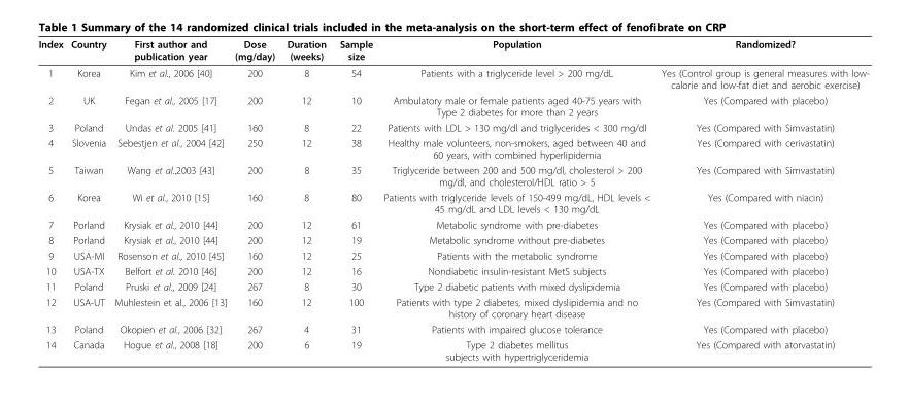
<table><thead><tr><td>Index</td><td>Country</td><td>First author and publication year</td><td>Dose (mg/day)</td><td>Duration (weeks)</td><td>Sample size</td><td>Population</td><td>Randomized?</td></tr></thead><tbody><tr><td>1</td><td>Korea</td><td>Kim et al., 2006 [40]</td><td>200</td><td>8</td><td>54</td><td>Patients with a triglyceride level &gt; 200 mg/dL</td><td>Yes (Control group is general measures with low- calorie and low-fat diet and aerobic exercise)</td></tr><tr><td>2</td><td>UK</td><td>Fegan et al., 2005 [17]</td><td>200</td><td>12</td><td>10</td><td>Ambulatory male or female patients aged 40-75 years with Type 2 diabetes for more than 2 years</td><td>Yes (Compared with placebo)</td></tr><tr><td>3</td><td>Poland</td><td>Undas et al. 2005 [41]</td><td>160</td><td>8</td><td>22</td><td>Patients with LDL &gt; 130 mg/dl and triglycerides &lt; 300 mg/dl</td><td>Yes (Compared with Simvastatin)</td></tr><tr><td>4</td><td>Slovenia</td><td>Sebestjen et al., 2004 [42]</td><td>250</td><td>12</td><td>38</td><td>Healthy male volunteers, non-smokers, aged between 40 and 60 years, with combined hyperlipidemia</td><td>Yes (Compared with cerivastatin)</td></tr><tr><td>5</td><td>Taiwan</td><td>Wang et al.,2003 [43]</td><td>200</td><td>8</td><td>35</td><td>Triglyceride between 200 and 500 mg/dl, cholesterol &gt; 200 mg/dl, and cholesterol/HDL ratio &gt; 5</td><td>Yes (Compared with Simvastatin)</td></tr><tr><td>6</td><td>Korea</td><td>Wi et al., 2010 [15]</td><td>160</td><td>8</td><td>80</td><td>Patients with triglyceride levels of 150-499 mg/dL, HDL levels &lt; 45 mg/dL and LDL levels &lt; 130 mg/dL</td><td>Yes (Compared with niacin)</td></tr><tr><td>7</td><td>Porland</td><td>Krysiak et al., 2010 [44]</td><td>200</td><td>12</td><td>61</td><td>Metabolic syndrome with pre-diabetes</td><td>Yes (Compared with placebo)</td></tr><tr><td>8</td><td>Porland</td><td>Krysiak et al., 2010 [44]</td><td>200</td><td>12</td><td>19</td><td>Metabolic syndrome without pre-diabetes</td><td>Yes (Compared with placebo)</td></tr><tr><td>9</td><td>USA-MI</td><td>Rosenson et al., 2010 [45]</td><td>160</td><td>12</td><td>25</td><td>Patients with the metabolic syndrome</td><td>Yes (Compared with placebo)</td></tr><tr><td>10</td><td>USA-TX</td><td>Belfort et al. 2010 [46]</td><td>200</td><td>12</td><td>16</td><td>Nondiabetic insulin-resistant MetS subjects</td><td>Yes (Compared with placebo)</td></tr><tr><td>11</td><td>Poland</td><td>Pruski et al., 2009 [24]</td><td>267</td><td>8</td><td>30</td><td>Type 2 diabetic patients with mixed dyslipidemia</td><td>Yes (Compared with placebo)</td></tr><tr><td>12</td><td>USA-UT</td><td>Muhlestein et al., 2006 [13]</td><td>160</td><td>12</td><td>100</td><td>Patients with type 2 diabetes, mixed dyslipidemia and no history of coronary heart disease</td><td>Yes (Compared with Simvastatin)</td></tr><tr><td>13</td><td>Poland</td><td>Okopien et al., 2006 [32]</td><td>267</td><td>4</td><td>31</td><td>Patients with impaired glucose tolerance</td><td>Yes (Compared with placebo)</td></tr><tr><td>14</td><td>Canada</td><td>Hogue et al., 2008 [18]</td><td>200</td><td>6</td><td>19</td><td>Type 2 diabetes mellitus subjects with hypertriglyceridemia</td><td>Yes (Compared with atorvastatin)</td></tr></tbody></table>